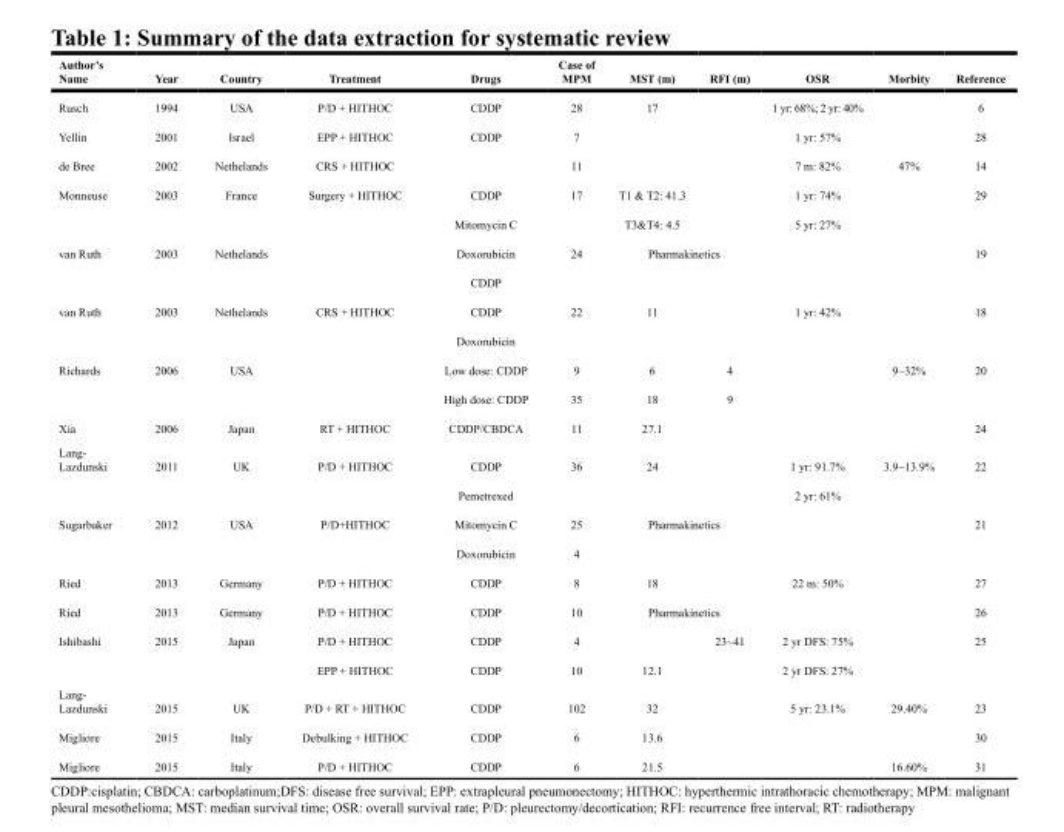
<table><thead><tr><td>Author’s Name</td><td>Year</td><td>Country</td><td>Treatment</td><td>Drugs</td><td>Case of MPM</td><td>MST (m)</td><td>RFI (m)</td><td>OSR</td><td>Morbity</td><td>Reference</td></tr></thead><tbody><tr><td>Rusch</td><td>1994</td><td>USA</td><td>P/D + HITHOC</td><td>CDDP</td><td>28</td><td>17</td><td></td><td>1 yr: 68%; 2 yr: 40%</td><td></td><td>6</td></tr><tr><td>Yellin</td><td>2001</td><td>Israel</td><td>EPP + HITHOC</td><td>CDDP</td><td>7</td><td></td><td></td><td>1 yr: 57%</td><td></td><td>28</td></tr><tr><td>de Bree</td><td>2002</td><td>Nethelands</td><td>CRS + HITHOC</td><td></td><td>11</td><td></td><td></td><td>7 m: 82%</td><td>47%</td><td>14</td></tr><tr><td rowspan="2">Monneuse</td><td>2003</td><td>France</td><td>Surgery + HITHOC</td><td>CDDP</td><td>17</td><td>T1 &amp; T2: 41.3</td><td></td><td>1 yr: 74%</td><td></td><td>29</td></tr><tr><td></td><td></td><td></td><td>Mitomycin C</td><td></td><td>T3&amp;T4: 4.5</td><td></td><td>5 yr: 27%</td><td></td><td></td></tr><tr><td rowspan="2">van Ruth</td><td>2003</td><td>Nethelands</td><td></td><td>Doxorubicin</td><td>24</td><td colspan="2">Pharmakinetics</td><td></td><td></td><td>19</td></tr><tr><td></td><td></td><td></td><td>CDDP</td><td></td><td></td><td></td><td></td><td></td><td></td></tr><tr><td rowspan="2">van Ruth</td><td>2003</td><td>Nethelands</td><td>CRS + HITHOC</td><td>CDDP</td><td>22</td><td>11</td><td></td><td>1 yr: 42%</td><td></td><td>18</td></tr><tr><td></td><td></td><td></td><td>Doxorubicin</td><td></td><td></td><td></td><td></td><td></td><td></td></tr><tr><td rowspan="2">Richards</td><td>2006</td><td>USA</td><td></td><td>Low dose: CDDP</td><td>9</td><td>6</td><td>4</td><td></td><td>9~32%</td><td>20</td></tr><tr><td></td><td></td><td></td><td>High dose: CDDP</td><td>35</td><td>18</td><td>9</td><td></td><td></td><td></td></tr><tr><td>Xia</td><td>2006</td><td>Japan</td><td>RT + HITHOC</td><td>CDDP/CBDCA</td><td>11</td><td>27.1</td><td></td><td></td><td></td><td>24</td></tr><tr><td rowspan="2">Lang- Lazdunski</td><td>2011</td><td>UK</td><td>P/D + HITHOC</td><td>CDDP</td><td>36</td><td>24</td><td></td><td>1 yr: 91.7%</td><td>3.9~13.9%</td><td>22</td></tr><tr><td></td><td></td><td></td><td>Pemetrexed</td><td></td><td></td><td></td><td>2 yr: 61%</td><td></td><td></td></tr><tr><td rowspan="2">Sugarbaker</td><td>2012</td><td>USA</td><td>P/D+HITHOC</td><td>Mitomycin C</td><td>25</td><td colspan="2">Pharmakinetics</td><td></td><td></td><td>21</td></tr><tr><td></td><td></td><td></td><td>Doxorubicin</td><td>4</td><td></td><td></td><td></td><td></td><td></td></tr><tr><td>Ried</td><td>2013</td><td>Germany</td><td>P/D + HITHOC</td><td>CDDP</td><td>8</td><td>18</td><td></td><td>22 m: 50%</td><td></td><td>27</td></tr><tr><td>Ried</td><td>2013</td><td>Germany</td><td>P/D + HITHOC</td><td>CDDP</td><td>10</td><td colspan="2">Pharmakinetics</td><td></td><td></td><td>26</td></tr><tr><td rowspan="2">Ishibashi</td><td>2015</td><td>Japan</td><td>P/D + HITHOC</td><td>CDDP</td><td>4</td><td></td><td>23~41</td><td>2 yr DFS: 75%</td><td></td><td>25</td></tr><tr><td></td><td></td><td>EPP + HITHOC</td><td>CDDP</td><td>10</td><td>12.1</td><td></td><td>2 yr DFS: 27%</td><td></td><td></td></tr><tr><td>Lang- Lazdunski</td><td>2015</td><td>UK</td><td>P/D + RT + HITHOC</td><td>CDDP</td><td>102</td><td>32</td><td></td><td>5 yr: 23.1%</td><td>29.40%</td><td>23</td></tr><tr><td>Migliore</td><td>2015</td><td>Italy</td><td>Debulking + HITHOC</td><td>CDDP</td><td>6</td><td>13.6</td><td></td><td></td><td></td><td>30</td></tr><tr><td>Migliore</td><td>2015</td><td>Italy</td><td>P/D + HITHOC</td><td>CDDP</td><td>6</td><td>21.5</td><td></td><td></td><td>16.60%</td><td>31</td></tr></tbody></table>